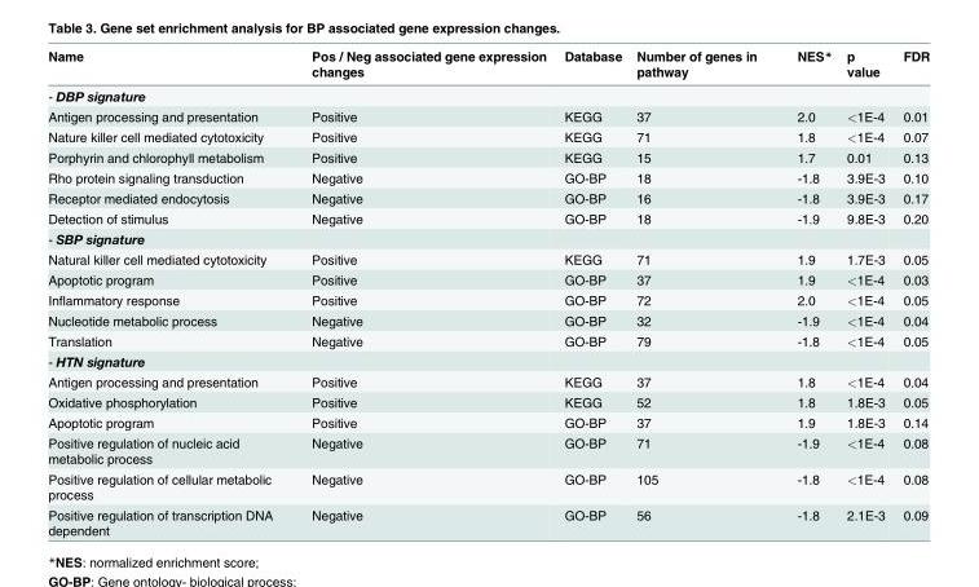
<table><thead><tr><td>Name</td><td>Pos / Neg associated gene expression changes</td><td>Database</td><td>Number of genes in pathway</td><td>NES*</td><td>p value</td><td>FDR</td></tr></thead><tbody><tr><td colspan="7">- DBP signature</td></tr><tr><td>Antigen processing and presentation</td><td>Positive</td><td>KEGG</td><td>37</td><td>2.0</td><td>&lt;1E-4</td><td>0.01</td></tr><tr><td>Nature killer cell mediated cytotoxicity</td><td>Positive</td><td>KEGG</td><td>71</td><td>1.8</td><td>&lt;1E-4</td><td>0.07</td></tr><tr><td>Porphyrin and chlorophyll metabolism</td><td>Positive</td><td>KEGG</td><td>15</td><td>1.7</td><td>0.01</td><td>0.13</td></tr><tr><td>Rho protein signaling transduction</td><td>Negative</td><td>GO-BP</td><td>18</td><td>-1.8</td><td>3.9E-3</td><td>0.10</td></tr><tr><td>Receptor mediated endocytosis</td><td>Negative</td><td>GO-BP</td><td>16</td><td>-1.8</td><td>3.9E-3</td><td>0.17</td></tr><tr><td>Detection of stimulus</td><td>Negative</td><td>GO-BP</td><td>18</td><td>-1.9</td><td>9.8E-3</td><td>0.20</td></tr><tr><td colspan="7">- SBP signature</td></tr><tr><td>Natural killer cell mediated cytotoxicity</td><td>Positive</td><td>KEGG</td><td>71</td><td>1.9</td><td>1.7E-3</td><td>0.05</td></tr><tr><td>Apoptotic program</td><td>Positive</td><td>GO-BP</td><td>37</td><td>1.9</td><td>&lt;1E-4</td><td>0.03</td></tr><tr><td>Inflammatory response</td><td>Positive</td><td>GO-BP</td><td>72</td><td>2.0</td><td>&lt;1E-4</td><td>0.05</td></tr><tr><td>Nucleotide metabolic process</td><td>Negative</td><td>GO-BP</td><td>32</td><td>-1.9</td><td>&lt;1E-4</td><td>0.04</td></tr><tr><td>Translation</td><td>Negative</td><td>GO-BP</td><td>79</td><td>-1.8</td><td>&lt;1E-4</td><td>0.05</td></tr><tr><td colspan="7">- HTN signature</td></tr><tr><td>Antigen processing and presentation</td><td>Positive</td><td>KEGG</td><td>37</td><td>1.8</td><td>&lt;1E-4</td><td>0.04</td></tr><tr><td>Oxidative phosphorylation</td><td>Positive</td><td>KEGG</td><td>52</td><td>1.8</td><td>1.8E-3</td><td>0.05</td></tr><tr><td>Apoptotic program</td><td>Positive</td><td>GO-BP</td><td>37</td><td>1.9</td><td>1.8E-3</td><td>0.14</td></tr><tr><td>Positive regulation of nucleic acid metabolic process</td><td>Negative</td><td>GO-BP</td><td>71</td><td>-1.9</td><td>&lt;1E-4</td><td>0.08</td></tr><tr><td>Positive regulation of cellular metabolic process</td><td>Negative</td><td>GO-BP</td><td>105</td><td>-1.8</td><td>&lt;1E-4</td><td>0.08</td></tr><tr><td>Positive regulation of transcription DNA dependent</td><td>Negative</td><td>GO-BP</td><td>56</td><td>-1.8</td><td>2.1E-3</td><td>0.09</td></tr></tbody></table>